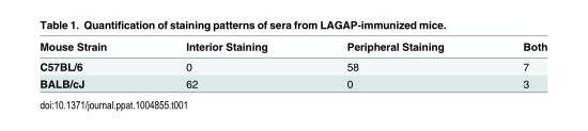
<table><thead><tr><td>Mouse Strain</td><td>Interior Staining</td><td>Peripheral Staining</td><td>Both</td></tr></thead><tbody><tr><td>C57BL/6</td><td>0</td><td>58</td><td>7</td></tr><tr><td>BALB/cJ</td><td>62</td><td>0</td><td>3</td></tr></tbody></table>